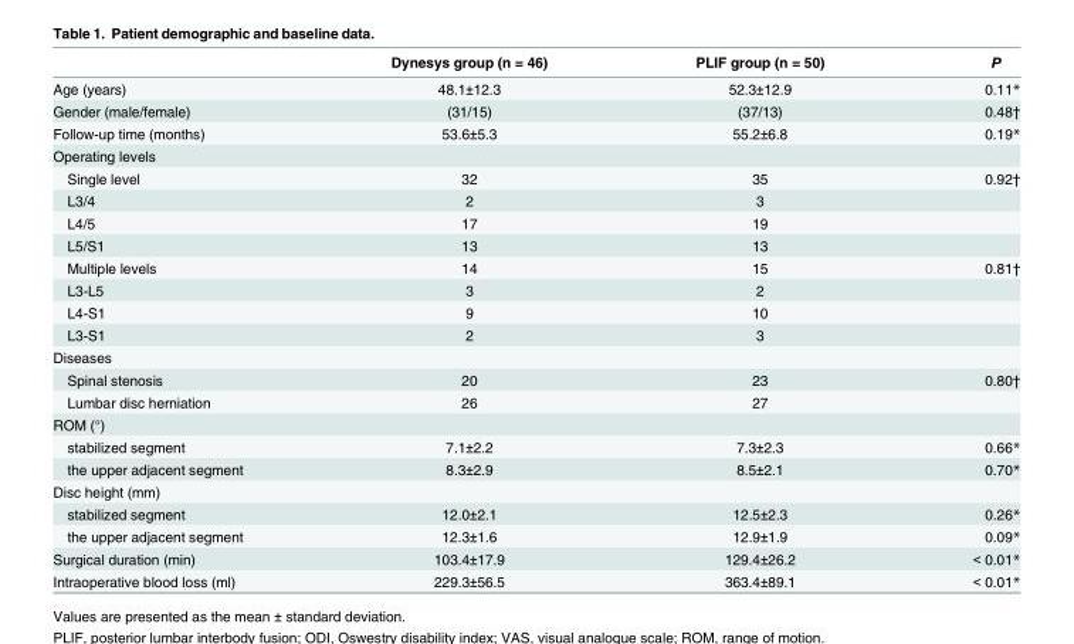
<table><thead><tr><td></td><td>Dynesys group (n = 46)</td><td>PLIF group (n = 50)</td><td>P</td></tr></thead><tbody><tr><td>Age (years)</td><td>48.1±12.3</td><td>52.3±12.9</td><td>0.11*</td></tr><tr><td>Gender (male/female)</td><td>(31/15)</td><td>(37/13)</td><td>0.48†</td></tr><tr><td>Follow-up time (months)</td><td>53.6±5.3</td><td>55.2±6.8</td><td>0.19*</td></tr><tr><td colspan="4">Operating levels</td></tr><tr><td>Single level</td><td>32</td><td>35</td><td>0.92†</td></tr><tr><td>L3/4</td><td>2</td><td>3</td><td></td></tr><tr><td>L4/5</td><td>17</td><td>19</td><td></td></tr><tr><td>L5/S1</td><td>13</td><td>13</td><td></td></tr><tr><td>Multiple levels</td><td>14</td><td>15</td><td>0.81†</td></tr><tr><td>L3-L5</td><td>3</td><td>2</td><td></td></tr><tr><td>L4-S1</td><td>9</td><td>10</td><td></td></tr><tr><td>L3-S1</td><td>2</td><td>3</td><td></td></tr><tr><td colspan="4">Diseases</td></tr><tr><td>Spinal stenosis</td><td>20</td><td>23</td><td>0.80†</td></tr><tr><td>Lumbar disc herniation</td><td>26</td><td>27</td><td></td></tr><tr><td colspan="4">ROM (°)</td></tr><tr><td>stabilized segment</td><td>7.1±2.2</td><td>7.3±2.3</td><td>0.66*</td></tr><tr><td>the upper adjacent segment</td><td>8.3±2.9</td><td>8.5±2.1</td><td>0.70*</td></tr><tr><td colspan="4">Disc height (mm)</td></tr><tr><td>stabilized segment</td><td>12.0±2.1</td><td>12.5±2.3</td><td>0.26*</td></tr><tr><td>the upper adjacent segment</td><td>12.3±1.6</td><td>12.9±1.9</td><td>0.09*</td></tr><tr><td>Surgical duration (min)</td><td>103.4±17.9</td><td>129.4±26.2</td><td>&lt; 0.01*</td></tr><tr><td>Intraoperative blood loss (ml)</td><td>229.3±56.5</td><td>363.4±89.1</td><td>&lt; 0.01*</td></tr></tbody></table>